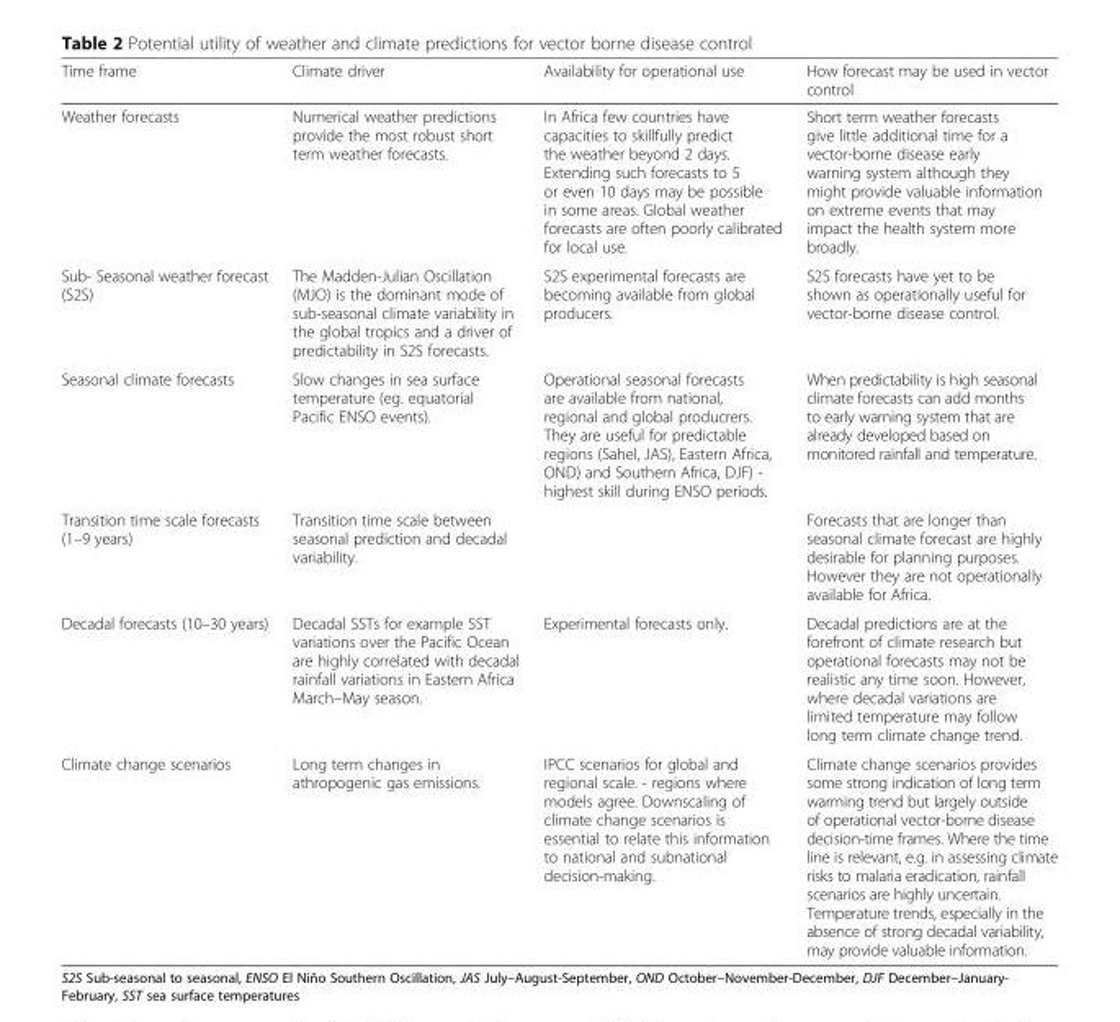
<table><thead><tr><td>Time frame</td><td>Climate driver</td><td>Availability for operational use</td><td>How forecast may be used in vector control</td></tr></thead><tbody><tr><td>Weather forecasts</td><td>Numerical weather predictions provide the most robust short term weather forecasts.</td><td>In Africa few countries have capacities to skillfully predict the weather beyond 2 days. Extending such forecasts to 5 or even 10 days may be possible in some areas. Global weather forecasts are often poorly calibrated for local use.</td><td>Short term weather forecasts give little additional time for a vector-borne disease early warning system although they might provide valuable information on extreme events that may impact the health system more broadly.</td></tr><tr><td>Sub- Seasonal weather forecast (S2S)</td><td>The Madden-Julian Oscillation (MJO) is the dominant mode of sub-seasonal climate variability in the global tropics and a driver of predictability in S2S forecasts.</td><td>S2S experimental forecasts are becoming available from global producers.</td><td>S2S forecasts have yet to be shown as operationally useful for vector-borne disease control.</td></tr><tr><td>Seasonal climate forecasts</td><td>Slow changes in sea surface temperature (eg. equatorial Pacific ENSO events).</td><td>Operational seasonal forecasts are available from national, regional and global producrers. They are useful for predictable regions (Sahel, JAS), Eastern Africa, OND) and Southern Africa, DJF) - highest skill during ENSO periods.</td><td>When predictability is high seasonal climate forecasts can add months to early warning system that are already developed based on monitored rainfall and temperature.</td></tr><tr><td>Transition time scale forecasts (1–9 years)</td><td>Transition time scale between seasonal prediction and decadal variability.</td><td></td><td>Forecasts that are longer than seasonal climate forecast are highly desirable for planning purposes. However they are not operationally available for Africa.</td></tr><tr><td>Decadal forecasts (10–30 years)</td><td>Decadal SSTs for example SST variations over the Pacific Ocean are highly correlated with decadal rainfall variations in Eastern Africa March–May season.</td><td>Experimental forecasts only.</td><td>Decadal predictions are at the forefront of climate research but operational forecasts may not be realistic any time soon. However, where decadal variations are limited temperature may follow long term climate change trend.</td></tr><tr><td>Climate change scenarios</td><td>Long term changes in athropogenic gas emissions.</td><td>IPCC scenarios for global and regional scale. - regions where models agree. Downscaling of climate change scenarios is essential to relate this information to national and subnational decision-making.</td><td>Climate change scenarios provides some strong indication of long term warming trend but largely outside of operational vector-borne disease decision-time frames. Where the time line is relevant, e.g. in assessing climate risks to malaria eradication, rainfall scenarios are highly uncertain. Temperature trends, especially in the absence of strong decadal variability, may provide valuable information.</td></tr></tbody></table>